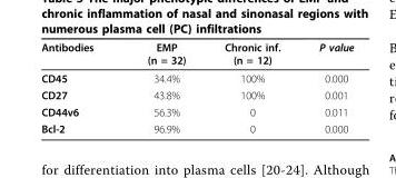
<table><thead><tr><td>Antibodies</td><td>EMP (n = 32)</td><td>Chronic inf. (n = 12)</td><td>P value</td></tr></thead><tbody><tr><td>CD45</td><td>34.4%</td><td>100%</td><td>0.000</td></tr><tr><td>CD27</td><td>43.8%</td><td>100%</td><td>0.001</td></tr><tr><td>CD44v6</td><td>56.3%</td><td>0</td><td>0.011</td></tr><tr><td>Bcl-2</td><td>96.9%</td><td>0</td><td>0.000</td></tr></tbody></table>